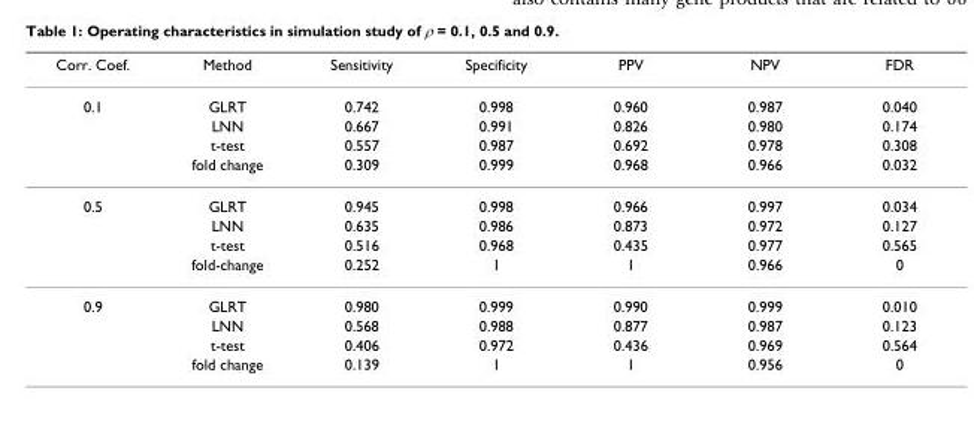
<table><thead><tr><td>Corr. Coef.</td><td>Method</td><td>Sensitivity</td><td>Specificity</td><td>PPV</td><td>NPV</td><td>FDR</td></tr></thead><tbody><tr><td rowspan="4">0.1</td><td>GLRT</td><td>0.742</td><td>0.998</td><td>0.960</td><td>0.987</td><td>0.040</td></tr><tr><td>LNN</td><td>0.667</td><td>0.991</td><td>0.826</td><td>0.980</td><td>0.174</td></tr><tr><td>t-test</td><td>0.557</td><td>0.987</td><td>0.692</td><td>0.978</td><td>0.308</td></tr><tr><td>fold change</td><td>0.309</td><td>0.999</td><td>0.968</td><td>0.966</td><td>0.032</td></tr><tr><td rowspan="4">0.5</td><td>GLRT</td><td>0.945</td><td>0.998</td><td>0.966</td><td>0.997</td><td>0.034</td></tr><tr><td>LNN</td><td>0.635</td><td>0.986</td><td>0.873</td><td>0.972</td><td>0.127</td></tr><tr><td>t-test</td><td>0.516</td><td>0.968</td><td>0.435</td><td>0.977</td><td>0.565</td></tr><tr><td>fold-change</td><td>0.252</td><td>1</td><td>1</td><td>0.966</td><td>0</td></tr><tr><td rowspan="4">0.9</td><td>GLRT</td><td>0.980</td><td>0.999</td><td>0.990</td><td>0.999</td><td>0.010</td></tr><tr><td>LNN</td><td>0.568</td><td>0.988</td><td>0.877</td><td>0.987</td><td>0.123</td></tr><tr><td>t-test</td><td>0.406</td><td>0.972</td><td>0.436</td><td>0.969</td><td>0.564</td></tr><tr><td>fold change</td><td>0.139</td><td>1</td><td>1</td><td>0.956</td><td>0</td></tr></tbody></table>